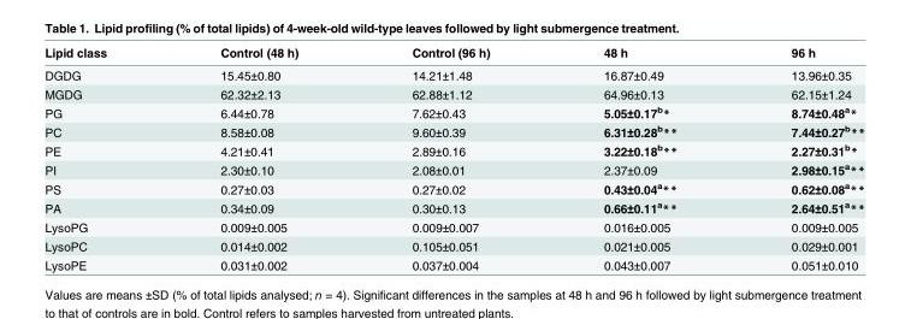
<table><thead><tr><td>Lipid class</td><td>Control (48 h)</td><td>Control (96 h)</td><td>48 h</td><td>96 h</td></tr></thead><tbody><tr><td>DGDG</td><td>15.45±0.80</td><td>14.21±1.48</td><td>16.87±0.49</td><td>13.96±0.35</td></tr><tr><td>MGDG</td><td>62.32±2.13</td><td>62.88±1.12</td><td>64.96±0.13</td><td>62.15±1.24</td></tr><tr><td>PG</td><td>6.44±0.78</td><td>7.62±0.43</td><td>5.05±0.17<sup>b</sup>*</td><td>8.74±0.48<sup>a</sup>*</td></tr><tr><td>PC</td><td>8.58±0.08</td><td>9.60±0.39</td><td>6.31±0.28<sup>b</sup>**</td><td>7.44±0.27<sup>b</sup>**</td></tr><tr><td>PE</td><td>4.21±0.41</td><td>2.89±0.16</td><td>3.22±0.18<sup>b</sup>**</td><td>2.27±0.31<sup>b</sup>*</td></tr><tr><td>PI</td><td>2.30±0.10</td><td>2.08±0.01</td><td>2.37±0.09</td><td>2.98±0.15<sup>a</sup>**</td></tr><tr><td>PS</td><td>0.27±0.03</td><td>0.27±0.02</td><td>0.43±0.04<sup>a</sup>**</td><td>0.62±0.08<sup>a</sup>**</td></tr><tr><td>PA</td><td>0.34±0.09</td><td>0.30±0.13</td><td>0.66±0.11<sup>a</sup>**</td><td>2.64±0.51<sup>a</sup>**</td></tr><tr><td>LysoPG</td><td>0.009±0.005</td><td>0.009±0.007</td><td>0.016±0.005</td><td>0.009±0.005</td></tr><tr><td>LysoPC</td><td>0.014±0.002</td><td>0.105±0.051</td><td>0.021±0.005</td><td>0.029±0.001</td></tr><tr><td>LysoPE</td><td>0.031±0.002</td><td>0.037±0.004</td><td>0.043±0.007</td><td>0.051±0.010</td></tr></tbody></table>